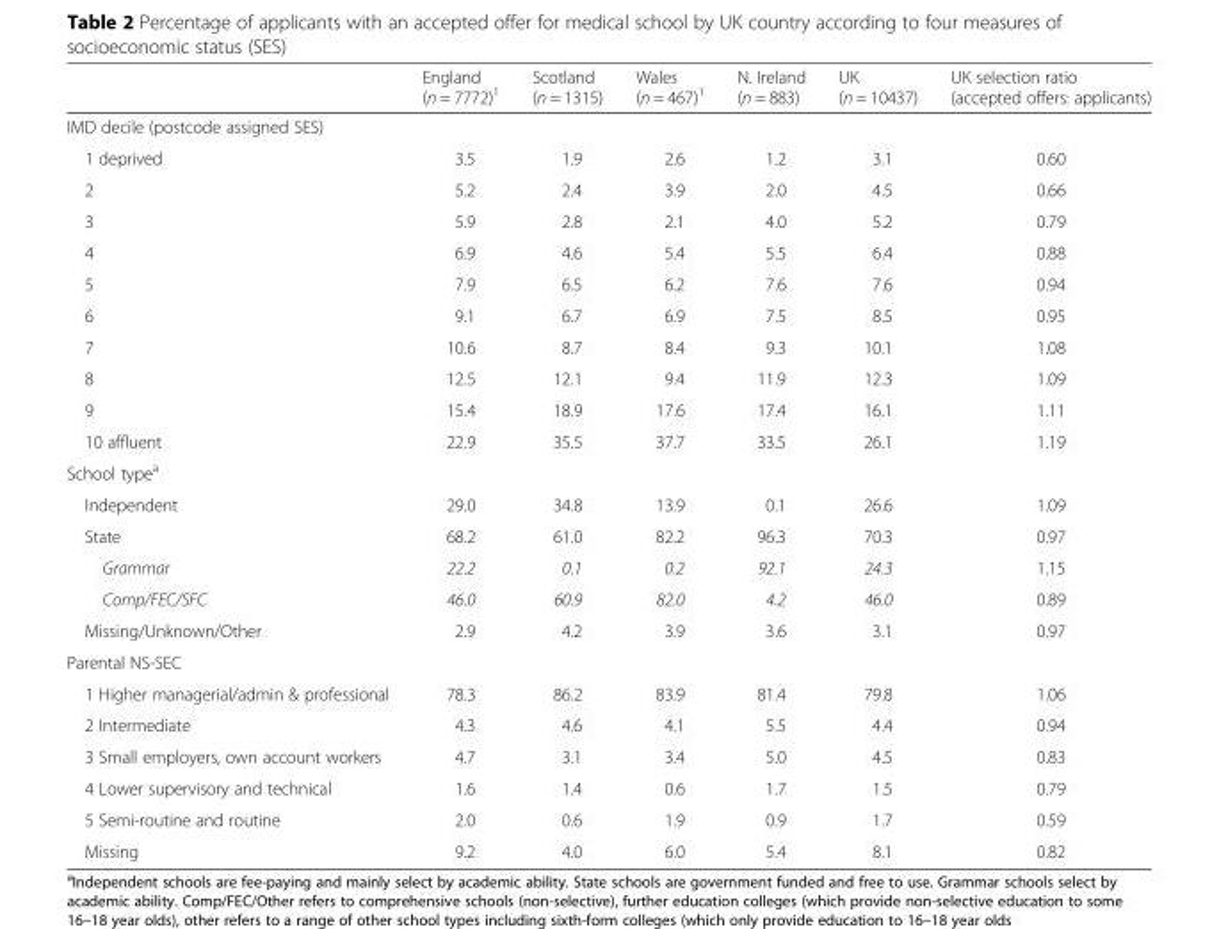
<table><thead><tr><td></td><td>England (n = 7772)<sup>1</sup></td><td>Scotland (n = 1315)</td><td>Wales (n = 467)<sup>1</sup></td><td>N. Ireland (n = 883)</td><td>UK (n = 10437)</td><td>UK selection ratio (accepted offers: applicants)</td></tr></thead><tbody><tr><td colspan="7">IMD decile (postcode assigned SES)</td></tr><tr><td>1 deprived</td><td>3.5</td><td>1.9</td><td>2.6</td><td>1.2</td><td>3.1</td><td>0.60</td></tr><tr><td>2</td><td>5.2</td><td>2.4</td><td>3.9</td><td>2.0</td><td>4.5</td><td>0.66</td></tr><tr><td>3</td><td>5.9</td><td>2.8</td><td>2.1</td><td>4.0</td><td>5.2</td><td>0.79</td></tr><tr><td>4</td><td>6.9</td><td>4.6</td><td>5.4</td><td>5.5</td><td>6.4</td><td>0.88</td></tr><tr><td>5</td><td>7.9</td><td>6.5</td><td>6.2</td><td>7.6</td><td>7.6</td><td>0.94</td></tr><tr><td>6</td><td>9.1</td><td>6.7</td><td>6.9</td><td>7.5</td><td>8.5</td><td>0.95</td></tr><tr><td>7</td><td>10.6</td><td>8.7</td><td>8.4</td><td>9.3</td><td>10.1</td><td>1.08</td></tr><tr><td>8</td><td>12.5</td><td>12.1</td><td>9.4</td><td>11.9</td><td>12.3</td><td>1.09</td></tr><tr><td>9</td><td>15.4</td><td>18.9</td><td>17.6</td><td>17.4</td><td>16.1</td><td>1.11</td></tr><tr><td>10 affluent</td><td>22.9</td><td>35.5</td><td>37.7</td><td>33.5</td><td>26.1</td><td>1.19</td></tr><tr><td colspan="7">School type<sup>a</sup></td></tr><tr><td>Independent</td><td>29.0</td><td>34.8</td><td>13.9</td><td>0.1</td><td>26.6</td><td>1.09</td></tr><tr><td>State</td><td>68.2</td><td>61.0</td><td>82.2</td><td>96.3</td><td>70.3</td><td>0.97</td></tr><tr><td>Grammar</td><td>22.2</td><td>0.1</td><td>0.2</td><td>92.1</td><td>24.3</td><td>1.15</td></tr><tr><td>Comp/FEC/SFC</td><td>46.0</td><td>60.9</td><td>82.0</td><td>4.2</td><td>46.0</td><td>0.89</td></tr><tr><td>Missing/Unknown/Other</td><td>2.9</td><td>4.2</td><td>3.9</td><td>3.6</td><td>3.1</td><td>0.97</td></tr><tr><td colspan="7">Parental NS-SEC</td></tr><tr><td>1 Higher managerial/admin &amp; professional</td><td>78.3</td><td>86.2</td><td>83.9</td><td>81.4</td><td>79.8</td><td>1.06</td></tr><tr><td>2 Intermediate</td><td>4.3</td><td>4.6</td><td>4.1</td><td>5.5</td><td>4.4</td><td>0.94</td></tr><tr><td>3 Small employers, own account workers</td><td>4.7</td><td>3.1</td><td>3.4</td><td>5.0</td><td>4.5</td><td>0.83</td></tr><tr><td>4 Lower supervisory and technical</td><td>1.6</td><td>1.4</td><td>0.6</td><td>1.7</td><td>1.5</td><td>0.79</td></tr><tr><td>5 Semi-routine and routine</td><td>2.0</td><td>0.6</td><td>1.9</td><td>0.9</td><td>1.7</td><td>0.59</td></tr><tr><td>Missing</td><td>9.2</td><td>4.0</td><td>6.0</td><td>5.4</td><td>8.1</td><td>0.82</td></tr></tbody></table>